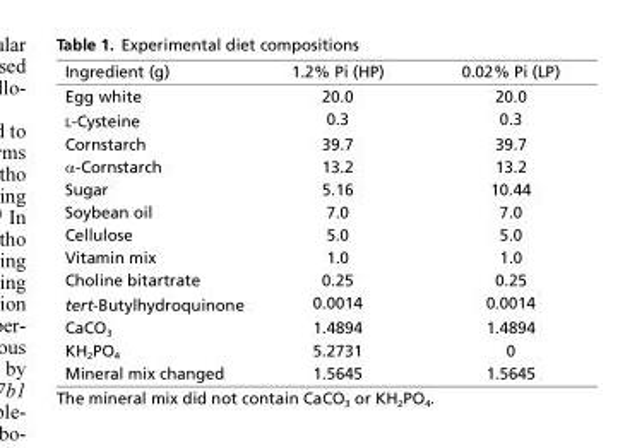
<table><thead><tr><td>Ingredient (g)</td><td>1.2% Pi (HP)</td><td>0.02% Pi (LP)</td></tr></thead><tbody><tr><td>Egg white</td><td>20.0</td><td>20.0</td></tr><tr><td>L-Cysteine</td><td>0.3</td><td>0.3</td></tr><tr><td>Cornstarch</td><td>39.7</td><td>39.7</td></tr><tr><td>α-Cornstarch</td><td>13.2</td><td>13.2</td></tr><tr><td>Sugar</td><td>5.16</td><td>10.44</td></tr><tr><td>Soybean oil</td><td>7.0</td><td>7.0</td></tr><tr><td>Cellulose</td><td>5.0</td><td>5.0</td></tr><tr><td>Vitamin mix</td><td>1.0</td><td>1.0</td></tr><tr><td>Choline bitartrate</td><td>0.25</td><td>0.25</td></tr><tr><td>tert-Butylhydroquinone</td><td>0.0014</td><td>0.0014</td></tr><tr><td>CaCO<sub>3</sub></td><td>1.4894</td><td>1.4894</td></tr><tr><td>KH<sub>2</sub>PO<sub>4</sub></td><td>5.2731</td><td>0</td></tr><tr><td>Mineral mix changed</td><td>1.5645</td><td>1.5645</td></tr></tbody></table>